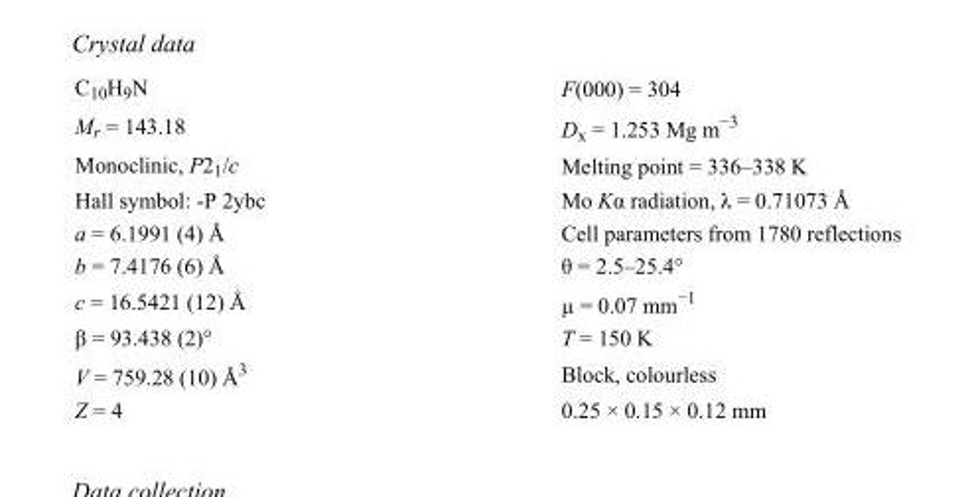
<table><tbody><tr><td>C<sub>10</sub>H<sub>9</sub>N</td><td>F(000) = 304</td></tr><tr><td>M<sub>r</sub> = 143.18</td><td>D<sub>x</sub> = 1.253 Mg m<sup>−3</sup></td></tr><tr><td>Monoclinic, P2<sub>1</sub>/c</td><td>Melting point = 336–338 K</td></tr><tr><td>Hall symbol: -P 2ybc</td><td>Mo Kα radiation, λ = 0.71073 Å</td></tr><tr><td>a = 6.1991 (4) Å</td><td>Cell parameters from 1780 reflections</td></tr><tr><td>b = 7.4176 (6) Å</td><td>θ = 2.5–25.4°</td></tr><tr><td>c = 16.5421 (12) Å</td><td>µ = 0.07 mm<sup>−1</sup></td></tr><tr><td>β = 93.438 (2)°</td><td>T = 150 K</td></tr><tr><td>V = 759.28 (10) Å<sup>3</sup></td><td>Block, colourless</td></tr><tr><td>Z = 4</td><td>0.25 × 0.15 × 0.12 mm</td></tr></tbody></table>